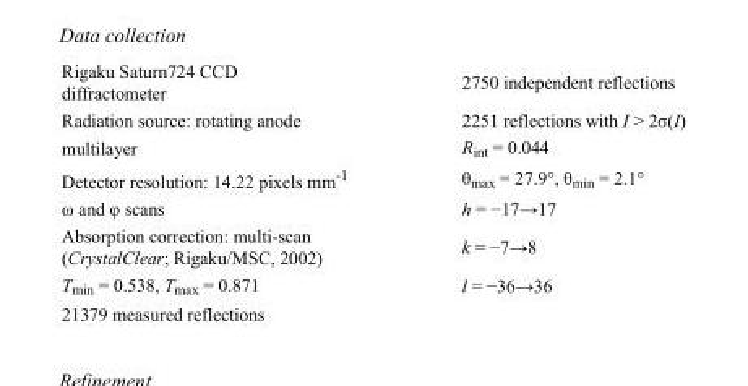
<table><tbody><tr><td>Rigaku Saturn724 CCD diffractometer</td><td>2750 independent reflections</td></tr><tr><td>Radiation source: rotating anode</td><td>2251 reflections with I &gt; 2σ(I)</td></tr><tr><td>multilayer</td><td>R<sub>int</sub> = 0.044</td></tr><tr><td>Detector resolution: 14.22 pixels mm<sup>-1</sup></td><td>θ<sub>max</sub> = 27.9°, θ<sub>min</sub> = 2.1°</td></tr><tr><td>ω and φ scans</td><td>h = −17→17</td></tr><tr><td>Absorption correction: multi-scan (CrystalClear; Rigaku/MSC, 2002)</td><td>k = −7→8</td></tr><tr><td>T<sub>min</sub> = 0.538, T<sub>max</sub> = 0.871</td><td>l = −36→36</td></tr><tr><td>21379 measured reflections</td><td></td></tr></tbody></table>